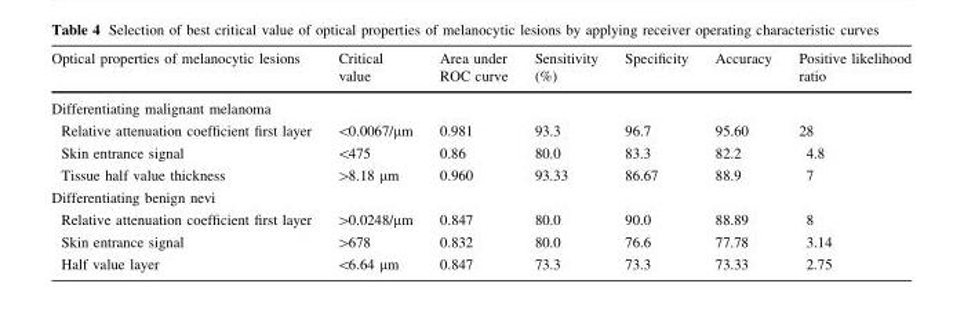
<table><thead><tr><td>Optical properties of melanocytic lesions</td><td>Critical value</td><td>Area under ROC curve</td><td>Sensitivity (%)</td><td>Specificity</td><td>Accuracy</td><td>Positive likelihood ratio</td></tr></thead><tbody><tr><td colspan="7">Differentiating malignant melanoma</td></tr><tr><td>Relative attenuation coefficient first layer</td><td>&lt;0.0067/µm</td><td>0.981</td><td>93.3</td><td>96.7</td><td>95.60</td><td>28</td></tr><tr><td>Skin entrance signal</td><td>&lt;475</td><td>0.86</td><td>80.0</td><td>83.3</td><td>82.2</td><td>4.8</td></tr><tr><td>Tissue half value thickness</td><td>&gt;8.18 µm</td><td>0.960</td><td>93.33</td><td>86.67</td><td>88.9</td><td>7</td></tr><tr><td colspan="7">Differentiating benign nevi</td></tr><tr><td>Relative attenuation coefficient first layer</td><td>&gt;0.0248/µm</td><td>0.847</td><td>80.0</td><td>90.0</td><td>88.89</td><td>8</td></tr><tr><td>Skin entrance signal</td><td>&gt;678</td><td>0.832</td><td>80.0</td><td>76.6</td><td>77.78</td><td>3.14</td></tr><tr><td>Half value layer</td><td>&lt;6.64 µm</td><td>0.847</td><td>73.3</td><td>73.3</td><td>73.33</td><td>2.75</td></tr></tbody></table>